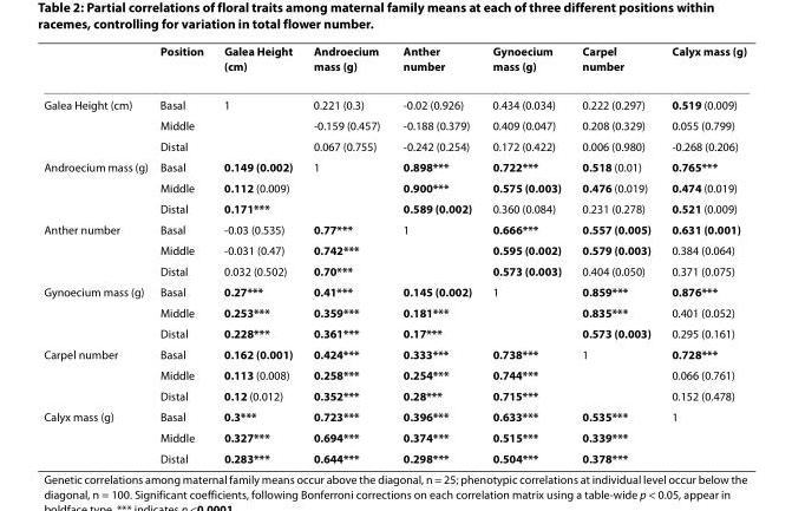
<table><thead><tr><td></td><td>Position</td><td>Galea Height (cm)</td><td>Androecium mass (g)</td><td>Anther number</td><td>Gynoecium mass (g)</td><td>Carpel number</td><td>Calyx mass (g)</td></tr></thead><tbody><tr><td rowspan="3">Galea Height (cm)</td><td>Basal</td><td>1</td><td>0.221 (0.3)</td><td>-0.02 (0.926)</td><td>0.434 (0.034)</td><td>0.222 (0.297)</td><td>0.519 (0.009)</td></tr><tr><td>Middle</td><td></td><td>-0.159 (0.457)</td><td>-0.188 (0.379)</td><td>0.409 (0.047)</td><td>0.208 (0.329)</td><td>0.055 (0.799)</td></tr><tr><td>Distal</td><td></td><td>0.067 (0.755)</td><td>-0.242 (0.254)</td><td>0.172 (0.422)</td><td>0.006 (0.980)</td><td>-0.268 (0.206)</td></tr><tr><td rowspan="3">Androecium mass (g)</td><td>Basal</td><td>0.149 (0.002)</td><td>1</td><td>0.898***</td><td>0.722***</td><td>0.518 (0.01)</td><td>0.765***</td></tr><tr><td>Middle</td><td>0.112 (0.009)</td><td></td><td>0.900***</td><td>0.575 (0.003)</td><td>0.476 (0.019)</td><td>0.474 (0.019)</td></tr><tr><td>Distal</td><td>0.171***</td><td></td><td>0.589 (0.002)</td><td>0.360 (0.084)</td><td>0.231 (0.278)</td><td>0.521 (0.009)</td></tr><tr><td rowspan="3">Anther number</td><td>Basal</td><td>-0.03 (0.535)</td><td>0.77***</td><td>1</td><td>0.666***</td><td>0.557 (0.005)</td><td>0.631 (0.001)</td></tr><tr><td>Middle</td><td>-0.031 (0.47)</td><td>0.742***</td><td></td><td>0.595 (0.002)</td><td>0.579 (0.003)</td><td>0.384 (0.064)</td></tr><tr><td>Distal</td><td>0.032 (0.502)</td><td>0.70***</td><td></td><td>0.573 (0.003)</td><td>0.404 (0.050)</td><td>0.371 (0.075)</td></tr><tr><td rowspan="3">Gynoecium mass (g)</td><td>Basal</td><td>0.27***</td><td>0.41***</td><td>0.145 (0.002)</td><td>1</td><td>0.859***</td><td>0.876***</td></tr><tr><td>Middle</td><td>0.253***</td><td>0.359***</td><td>0.181***</td><td></td><td>0.835***</td><td>0.401 (0.052)</td></tr><tr><td>Distal</td><td>0.228***</td><td>0.361***</td><td>0.17***</td><td></td><td>0.573 (0.003)</td><td>0.295 (0.161)</td></tr><tr><td rowspan="3">Carpel number</td><td>Basal</td><td>0.162 (0.001)</td><td>0.424***</td><td>0.333***</td><td>0.738***</td><td>1</td><td>0.728***</td></tr><tr><td>Middle</td><td>0.113 (0.008)</td><td>0.258***</td><td>0.254***</td><td>0.744***</td><td></td><td>0.066 (0.761)</td></tr><tr><td>Distal</td><td>0.12 (0.012)</td><td>0.352***</td><td>0.28***</td><td>0.715***</td><td></td><td>0.152 (0.478)</td></tr><tr><td rowspan="3">Calyx mass (g)</td><td>Basal</td><td>0.3***</td><td>0.723***</td><td>0.396***</td><td>0.633***</td><td>0.535***</td><td>1</td></tr><tr><td>Middle</td><td>0.327***</td><td>0.694***</td><td>0.374***</td><td>0.515***</td><td>0.339***</td><td></td></tr><tr><td>Distal</td><td>0.283***</td><td>0.644***</td><td>0.298***</td><td>0.504***</td><td>0.378***</td><td></td></tr></tbody></table>